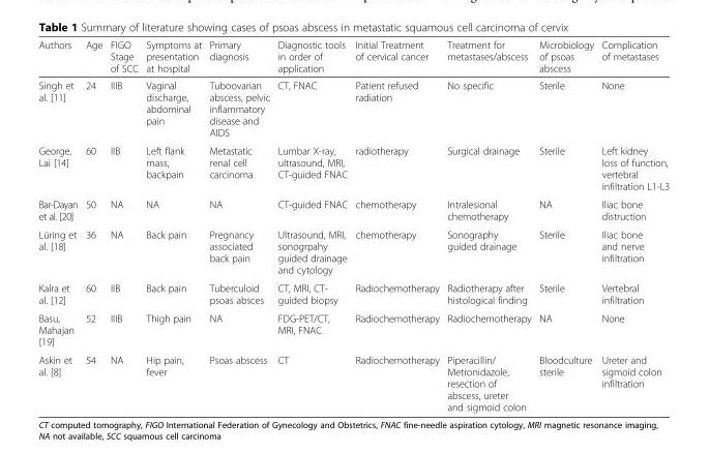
<table><thead><tr><td>Authors</td><td>Age</td><td>FIGO Stage of SCC</td><td>Symptoms at presentation at hospital</td><td>Primary diagnosis</td><td>Diagnostic tools in order of application</td><td>Initial Treatment of cervical cancer</td><td>Treatment for metastases/abscess</td><td>Microbiology of psoas abscess</td><td>Complication of metastases</td></tr></thead><tbody><tr><td>Singh et al. [11]</td><td>24</td><td>IIIB</td><td>Vaginal discharge, abdominal pain</td><td>Tuboovarian abscess, pelvic inflammatory disease and AIDS</td><td>CT, FNAC</td><td>Patient refused radiation</td><td>No specific</td><td>Sterile</td><td>None</td></tr><tr><td>George, Lai [14]</td><td>60</td><td>IIB</td><td>Left flank mass, backpain</td><td>Metastatic renal cell carcinoma</td><td>Lumbar X-ray, ultrasound, MRI, CT-guided FNAC</td><td>radiotherapy</td><td>Surgical drainage</td><td>Sterile</td><td>Left kidney loss of function, vertebral infiltration L1-L3</td></tr><tr><td>Bar-Dayan et al. [20]</td><td>50</td><td>NA</td><td>NA</td><td>NA</td><td>CT-guided FNAC</td><td>chemotherapy</td><td>Intralesional chemotherapy</td><td>NA</td><td>Iliac bone distruction</td></tr><tr><td>Lüring et al. [18]</td><td>36</td><td>NA</td><td>Back pain</td><td>Pregnancy associated back pain</td><td>Ultrasound, MRI, sonogrpahy guided drainage and cytology</td><td>chemotherapy</td><td>Sonography guided drainage</td><td>Sterile</td><td>Iliac bone and nerve infiltration</td></tr><tr><td>Kalra et al. [12]</td><td>60</td><td>IIB</td><td>Back pain</td><td>Tuberculoid psoas absces</td><td>CT, MRI, CT- guided biopsy</td><td>Radiochemotherapy</td><td>Radiotherapy after histological finding</td><td>Sterile</td><td>Vertebral infiltration</td></tr><tr><td>Basu, Mahajan [19]</td><td>52</td><td>IIIB</td><td>Thigh pain</td><td>NA</td><td>FDG-PET/CT, MRI, FNAC</td><td>Radiochemotherapy</td><td>Radiochemotherapy</td><td>NA</td><td>None</td></tr><tr><td>Askin et al. [8]</td><td>54</td><td>NA</td><td>Hip pain, fever</td><td>Psoas abscess</td><td>CT</td><td>Radiochemotherapy</td><td>Piperacillin/ Metronidazole, resection of abscess, ureter and sigmoid colon</td><td>Bloodculture sterile</td><td>Ureter and sigmoid colon infiltration</td></tr></tbody></table>